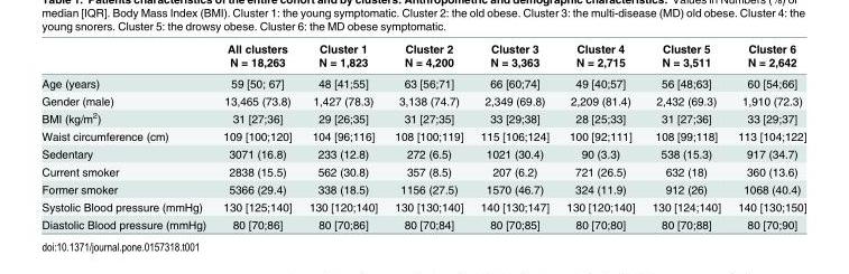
<table><thead><tr><td rowspan="2"></td><td rowspan="2">All clusters N = 18,263</td><td rowspan="2">Cluster 1 N = 1,823</td><td rowspan="2">Cluster 2 N = 4,200</td><td rowspan="2">Cluster 3 N = 3,363</td><td rowspan="2">Cluster 4 N = 2,715</td><td rowspan="2">Cluster 5 N = 3,511</td><td rowspan="2">Cluster 6 N = 2,642</td></tr><tr></tr></thead><tbody><tr><td>Age (years)</td><td>59 [50; 67]</td><td>48 [41;55]</td><td>63 [56;71]</td><td>66 [60;74]</td><td>49 [40;57]</td><td>56 [48;63]</td><td>60 [54;66]</td></tr><tr><td>Gender (male)</td><td>13,465 (73.8)</td><td>1,427 (78.3)</td><td>3,138 (74.7)</td><td>2,349 (69.8)</td><td>2,209 (81.4)</td><td>2,432 (69.3)</td><td>1,910 (72.3)</td></tr><tr><td>BMI (kg/m<sup>2</sup>)</td><td>31 [27;36]</td><td>29 [26;35]</td><td>31 [27;35]</td><td>33 [29;38]</td><td>28 [25;33]</td><td>31 [27;36]</td><td>33 [29;37]</td></tr><tr><td>Waist circumference (cm)</td><td>109 [100;120]</td><td>104 [96;116]</td><td>108 [100;119]</td><td>115 [106;124]</td><td>100 [92;111]</td><td>108 [99;118]</td><td>113 [104;122]</td></tr><tr><td>Sedentary</td><td>3071 (16.8)</td><td>233 (12.8)</td><td>272 (6.5)</td><td>1021 (30.4)</td><td>90 (3.3)</td><td>538 (15.3)</td><td>917 (34.7)</td></tr><tr><td>Current smoker</td><td>2838 (15.5)</td><td>562 (30.8)</td><td>357 (8.5)</td><td>207 (6.2)</td><td>721 (26.5)</td><td>632 (18)</td><td>360 (13.6)</td></tr><tr><td>Former smoker</td><td>5366 (29.4)</td><td>338 (18.5)</td><td>1156 (27.5)</td><td>1570 (46.7)</td><td>324 (11.9)</td><td>912 (26)</td><td>1068 (40.4)</td></tr><tr><td>Systolic Blood pressure (mmHg)</td><td>130 [125;140]</td><td>130 [120;140]</td><td>130 [130;140]</td><td>140 [130;147]</td><td>130 [120;140]</td><td>130 [124;140]</td><td>140 [130;150]</td></tr><tr><td>Diastolic Blood pressure (mmHg)</td><td>80 [70;86]</td><td>80 [70;86]</td><td>80 [70;84]</td><td>80 [70;85]</td><td>80 [70;80]</td><td>80 [70;88]</td><td>80 [70;90]</td></tr></tbody></table>